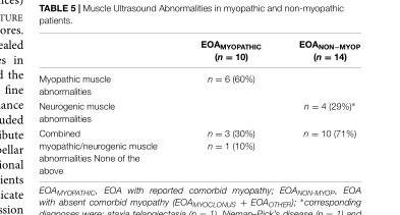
<table><thead><tr><td></td><td>EOA<sub>MYOPATHIC</sub> (n = 10)</td><td>EOA<sub>NON−MYOP</sub> (n = 14)</td></tr></thead><tbody><tr><td>Myopathic muscle abnormalities</td><td>n = 6 (60%)</td><td></td></tr><tr><td>Neurogenic muscle abnormalities</td><td></td><td>n = 4 (29%)∗</td></tr><tr><td>Combined myopathic/neurogenic muscle abnormalities None of the above</td><td>n = 3 (30%) n = 1 (10%)</td><td>n = 10 (71%)</td></tr></tbody></table>